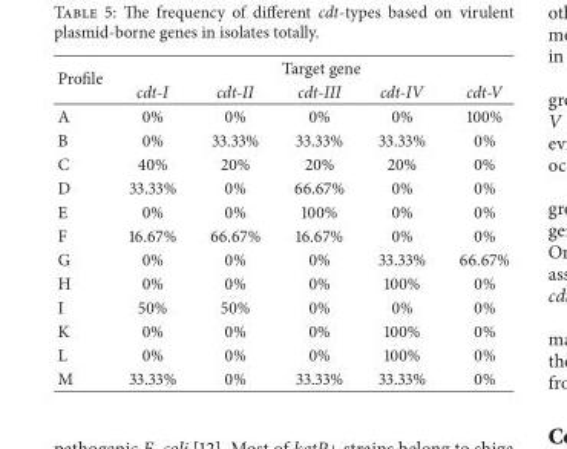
<table><thead><tr><td rowspan="2">Profile</td><td colspan="5">Target gene</td></tr><tr><td>cdt-I</td><td>cdt-II</td><td>cdt-III</td><td>cdt-IV</td><td>cdt-V</td></tr></thead><tbody><tr><td>A</td><td>0%</td><td>0%</td><td>0%</td><td>0%</td><td>100%</td></tr><tr><td>B</td><td>0%</td><td>33.33%</td><td>33.33%</td><td>33.33%</td><td>0%</td></tr><tr><td>C</td><td>40%</td><td>20%</td><td>20%</td><td>20%</td><td>0%</td></tr><tr><td>D</td><td>33.33%</td><td>0%</td><td>66.67%</td><td>0%</td><td>0%</td></tr><tr><td>E</td><td>0%</td><td>0%</td><td>100%</td><td>0%</td><td>0%</td></tr><tr><td>F</td><td>16.67%</td><td>66.67%</td><td>16.67%</td><td>0%</td><td>0%</td></tr><tr><td>G</td><td>0%</td><td>0%</td><td>0%</td><td>33.33%</td><td>66.67%</td></tr><tr><td>H</td><td>0%</td><td>0%</td><td>0%</td><td>100%</td><td>0%</td></tr><tr><td>I</td><td>50%</td><td>50%</td><td>0%</td><td>0%</td><td>0%</td></tr><tr><td>K</td><td>0%</td><td>0%</td><td>0%</td><td>100%</td><td>0%</td></tr><tr><td>L</td><td>0%</td><td>0%</td><td>0%</td><td>100%</td><td>0%</td></tr><tr><td>M</td><td>33.33%</td><td>0%</td><td>33.33%</td><td>33.33%</td><td>0%</td></tr></tbody></table>